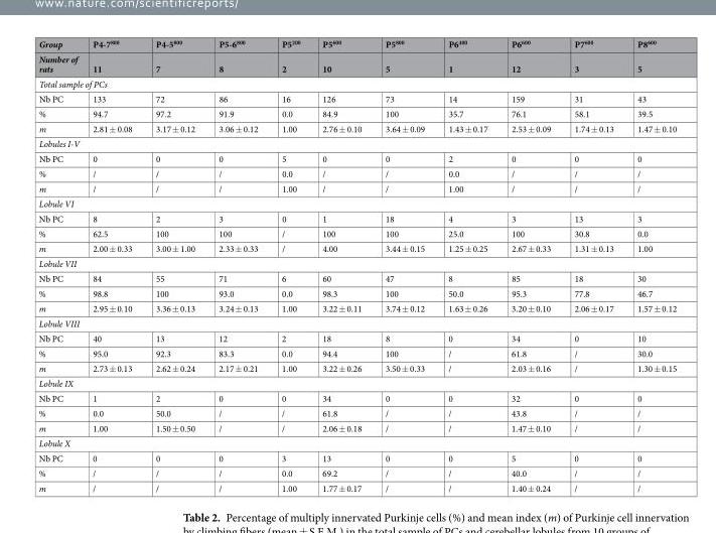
<table><thead><tr><td rowspan="2">Group Number of rats</td><td rowspan="2">P4-7<sup>800</sup> 11</td><td rowspan="2">P4-5<sup>800</sup> 7</td><td rowspan="2">P5-6<sup>800</sup> 8</td><td rowspan="2">P5<sup>200</sup> 2</td><td rowspan="2">P5<sup>600</sup> 10</td><td rowspan="2">P5<sup>800</sup> 5</td><td rowspan="2">P6<sup>400</sup> 1</td><td rowspan="2">P6<sup>600</sup> 12</td><td rowspan="2">P7<sup>600</sup> 3</td><td rowspan="2">P8<sup>600</sup> 5</td></tr><tr></tr></thead><tbody><tr><td colspan="11">Total sample of PCs</td></tr><tr><td>Nb PC</td><td>133</td><td>72</td><td>86</td><td>16</td><td>126</td><td>73</td><td>14</td><td>159</td><td>31</td><td>43</td></tr><tr><td>%</td><td>94.7</td><td>97.2</td><td>91.9</td><td>0.0</td><td>84.9</td><td>100</td><td>35.7</td><td>76.1</td><td>58.1</td><td>39.5</td></tr><tr><td>m</td><td>2.81 ± 0.08</td><td>3.17 ± 0.12</td><td>3.06 ± 0.12</td><td>1.00</td><td>2.76 ± 0.10</td><td>3.64 ± 0.09</td><td>1.43 ± 0.17</td><td>2.53 ± 0.09</td><td>1.74 ± 0.13</td><td>1.47 ± 0.10</td></tr><tr><td colspan="11">Lobules I-V</td></tr><tr><td>Nb PC</td><td>0</td><td>0</td><td>0</td><td>5</td><td>0</td><td>0</td><td>2</td><td>0</td><td>0</td><td>0</td></tr><tr><td>%</td><td>/</td><td>/</td><td>/</td><td>0.0</td><td>/</td><td>/</td><td>0.0</td><td>/</td><td>/</td><td>/</td></tr><tr><td>m</td><td>/</td><td>/</td><td>/</td><td>1.00</td><td>/</td><td>/</td><td>1.00</td><td>/</td><td>/</td><td>/</td></tr><tr><td colspan="11">Lobule VI</td></tr><tr><td>Nb PC</td><td>8</td><td>2</td><td>3</td><td>0</td><td>1</td><td>18</td><td>4</td><td>3</td><td>13</td><td>3</td></tr><tr><td>%</td><td>62.5</td><td>100</td><td>100</td><td>/</td><td>100</td><td>100</td><td>25.0</td><td>100</td><td>30.8</td><td>0.0</td></tr><tr><td>m</td><td>2.00 ± 0.33</td><td>3.00 ± 1.00</td><td>2.33 ± 0.33</td><td>/</td><td>4.00</td><td>3.44 ± 0.15</td><td>1.25 ± 0.25</td><td>2.67 ± 0.33</td><td>1.31 ± 0.13</td><td>1.00</td></tr><tr><td colspan="11">Lobule VII</td></tr><tr><td>Nb PC</td><td>84</td><td>55</td><td>71</td><td>6</td><td>60</td><td>47</td><td>8</td><td>85</td><td>18</td><td>30</td></tr><tr><td>%</td><td>98.8</td><td>100</td><td>93.0</td><td>0.0</td><td>98.3</td><td>100</td><td>50.0</td><td>95.3</td><td>77.8</td><td>46.7</td></tr><tr><td>m</td><td>2.95 ± 0.10</td><td>3.36 ± 0.13</td><td>3.24 ± 0.13</td><td>1.00</td><td>3.22 ± 0.11</td><td>3.74 ± 0.12</td><td>1.63 ± 0.26</td><td>3.20 ± 0.10</td><td>2.06 ± 0.17</td><td>1.57 ± 0.12</td></tr><tr><td colspan="11">Lobule VIII</td></tr><tr><td>Nb PC</td><td>40</td><td>13</td><td>12</td><td>2</td><td>18</td><td>8</td><td>0</td><td>34</td><td>0</td><td>10</td></tr><tr><td>%</td><td>95.0</td><td>92.3</td><td>83.3</td><td>0.0</td><td>94.4</td><td>100</td><td>/</td><td>61.8</td><td>/</td><td>30.0</td></tr><tr><td>m</td><td>2.73 ± 0.13</td><td>2.62 ± 0.24</td><td>2.17 ± 0.21</td><td>1.00</td><td>3.22 ± 0.26</td><td>3.50 ± 0.33</td><td>/</td><td>2.03 ± 0.16</td><td>/</td><td>1.30 ± 0.15</td></tr><tr><td colspan="11">Lobule IX</td></tr><tr><td>Nb PC</td><td>1</td><td>2</td><td>0</td><td>0</td><td>34</td><td>0</td><td>0</td><td>32</td><td>0</td><td>0</td></tr><tr><td>%</td><td>0.0</td><td>50.0</td><td>/</td><td>/</td><td>61.8</td><td>/</td><td>/</td><td>43.8</td><td>/</td><td>/</td></tr><tr><td>m</td><td>1.00</td><td>1.50 ± 0.50</td><td>/</td><td>/</td><td>2.06 ± 0.18</td><td>/</td><td>/</td><td>1.47 ± 0.10</td><td>/</td><td>/</td></tr><tr><td colspan="11">Lobule X</td></tr><tr><td>Nb PC</td><td>0</td><td>0</td><td>0</td><td>3</td><td>13</td><td>0</td><td>0</td><td>5</td><td>0</td><td>0</td></tr><tr><td>%</td><td>/</td><td>/</td><td>/</td><td>0.0</td><td>69.2</td><td>/</td><td>/</td><td>40.0</td><td>/</td><td>/</td></tr><tr><td>m</td><td>/</td><td>/</td><td>/</td><td>1.00</td><td>1.77 ± 0.17</td><td>/</td><td>/</td><td>1.40 ± 0.24</td><td>/</td><td>/</td></tr></tbody></table>